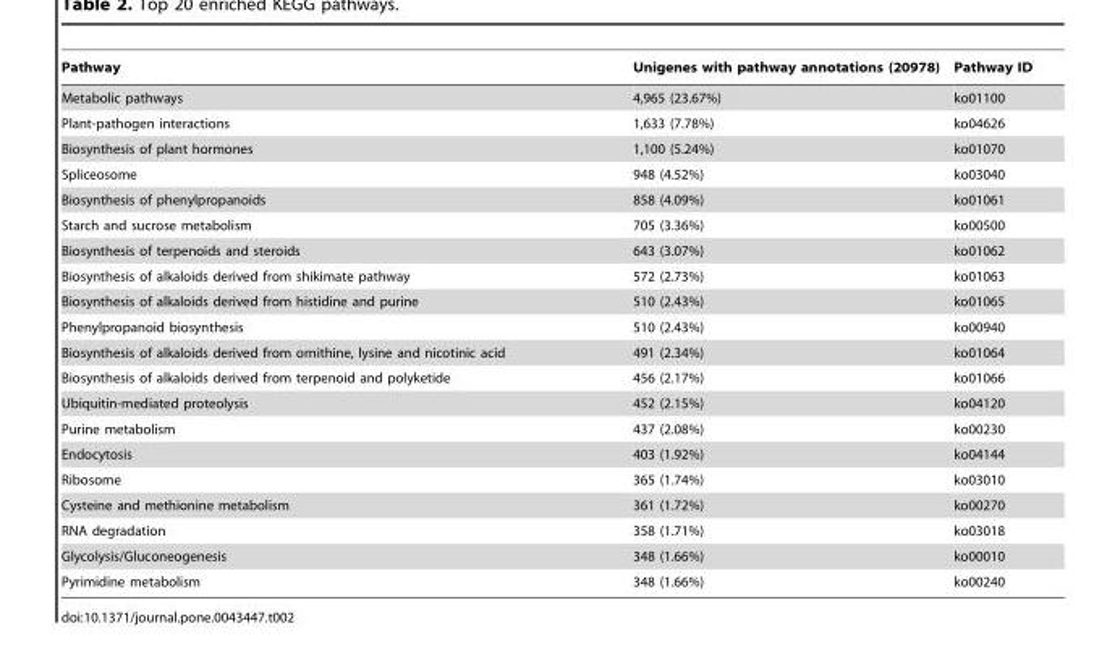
<table><thead><tr><td>Pathway</td><td>Unigenes with pathway annotations (20978)</td><td>Pathway ID</td></tr></thead><tbody><tr><td>Metabolic pathways</td><td>4,965 (23.67%)</td><td>ko01100</td></tr><tr><td>Plant-pathogen interactions</td><td>1,633 (7.78%)</td><td>ko04626</td></tr><tr><td>Biosynthesis of plant hormones</td><td>1,100 (5.24%)</td><td>ko01070</td></tr><tr><td>Spliceosome</td><td>948 (4.52%)</td><td>ko03040</td></tr><tr><td>Biosynthesis of phenylpropanoids</td><td>858 (4.09%)</td><td>ko01061</td></tr><tr><td>Starch and sucrose metabolism</td><td>705 (3.36%)</td><td>ko00500</td></tr><tr><td>Biosynthesis of terpenoids and steroids</td><td>643 (3.07%)</td><td>ko01062</td></tr><tr><td>Biosynthesis of alkaloids derived from shikimate pathway</td><td>572 (2.73%)</td><td>ko01063</td></tr><tr><td>Biosynthesis of alkaloids derived from histidine and purine</td><td>510 (2.43%)</td><td>ko01065</td></tr><tr><td>Phenylpropanoid biosynthesis</td><td>510 (2.43%)</td><td>ko00940</td></tr><tr><td>Biosynthesis of alkaloids derived from ornithine, lysine and nicotinic acid</td><td>491 (2.34%)</td><td>ko01064</td></tr><tr><td>Biosynthesis of alkaloids derived from terpenoid and polyketide</td><td>456 (2.17%)</td><td>ko01066</td></tr><tr><td>Ubiquitin-mediated proteolysis</td><td>452 (2.15%)</td><td>ko04120</td></tr><tr><td>Purine metabolism</td><td>437 (2.08%)</td><td>ko00230</td></tr><tr><td>Endocytosis</td><td>403 (1.92%)</td><td>ko04144</td></tr><tr><td>Ribosome</td><td>365 (1.74%)</td><td>ko03010</td></tr><tr><td>Cysteine and methionine metabolism</td><td>361 (1.72%)</td><td>ko00270</td></tr><tr><td>RNA degradation</td><td>358 (1.71%)</td><td>ko03018</td></tr><tr><td>Glycolysis/Gluconeogenesis</td><td>348 (1.66%)</td><td>ko00010</td></tr><tr><td>Pyrimidine metabolism</td><td>348 (1.66%)</td><td>ko00240</td></tr></tbody></table>